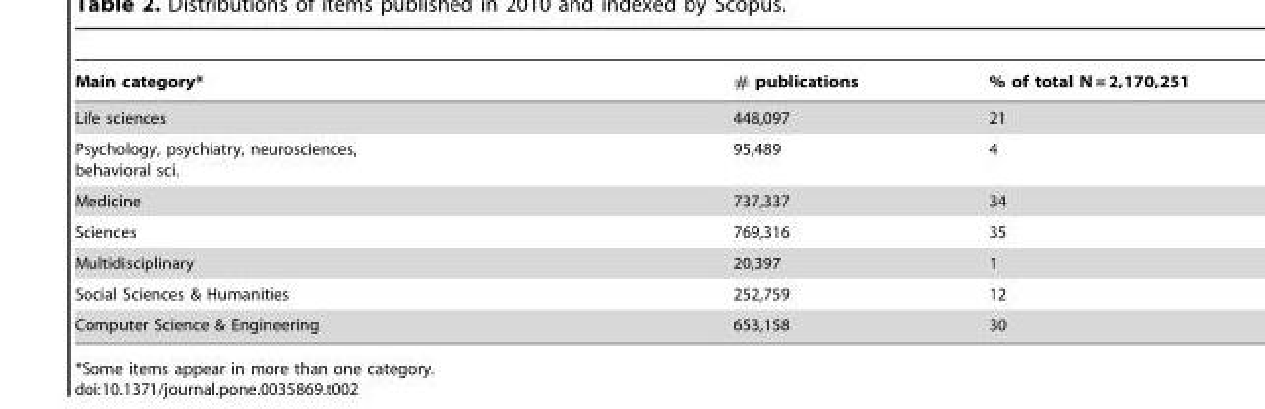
<table><thead><tr><td>Main category*</td><td># publications</td><td>% of total N = 2,170,251</td></tr></thead><tbody><tr><td>Life sciences</td><td>448,097</td><td>21</td></tr><tr><td>Psychology, psychiatry, neurosciences, behavioral sci.</td><td>95,489</td><td>4</td></tr><tr><td>Medicine</td><td>737,337</td><td>34</td></tr><tr><td>Sciences</td><td>769,316</td><td>35</td></tr><tr><td>Multidisciplinary</td><td>20,397</td><td>1</td></tr><tr><td>Social Sciences &amp; Humanities</td><td>252,759</td><td>12</td></tr><tr><td>Computer Science &amp; Engineering</td><td>653,158</td><td>30</td></tr></tbody></table>